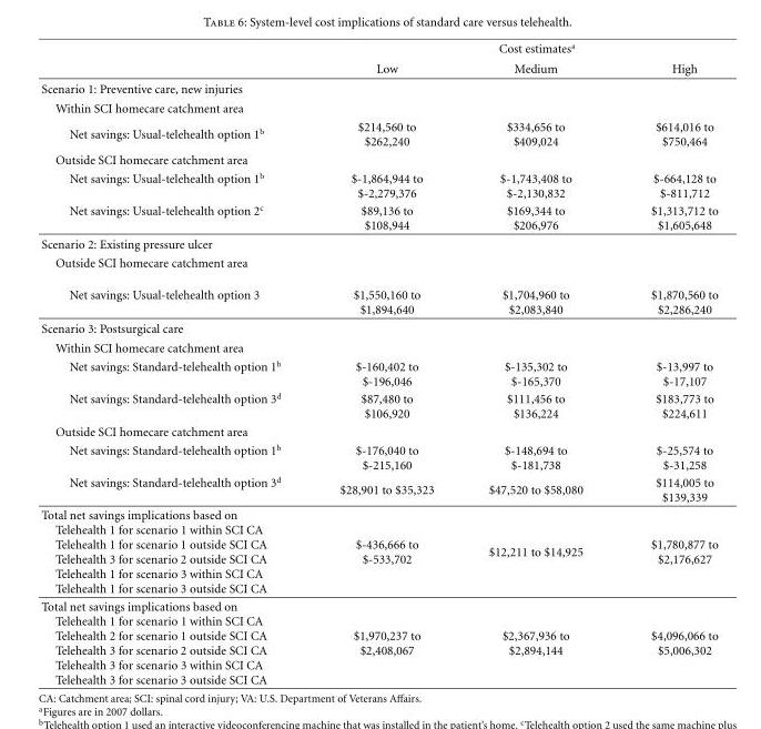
<table><thead><tr><td rowspan="2"></td><td colspan="3">Cost estimates<sup>a</sup></td></tr><tr><td>Low</td><td>Medium</td><td>High</td></tr></thead><tbody><tr><td colspan="4">Scenario 1: Preventive care, new injuries</td></tr><tr><td colspan="4">Within SCI homecare catchment area</td></tr><tr><td>Net savings: Usual-telehealth option 1<sup>b</sup></td><td>$214,560 to $262,240</td><td>$334,656 to $409,024</td><td>$614,016 to $750,464</td></tr><tr><td colspan="4">Outside SCI homecare catchment area</td></tr><tr><td>Net savings: Usual-telehealth option 1<sup>b</sup></td><td>$-1,864,944 to $-2,279,376</td><td>$-1,743,408 to $-2,130,832</td><td>$-664,128 to $-811,712</td></tr><tr><td>Net savings: Usual-telehealth option 2<sup>c</sup></td><td>$89,136 to $108,944</td><td>$169,344 to $206,976</td><td>$1,313,712 to $1,605,648</td></tr><tr><td colspan="4">Scenario 2: Existing pressure ulcer</td></tr><tr><td colspan="4">Outside SCI homecare catchment area</td></tr><tr><td>Net savings: Usual-telehealth option 3</td><td>$1,550,160 to $1,894,640</td><td>$1,704,960 to $2,083,840</td><td>$1,870,560 to $2,286,240</td></tr><tr><td colspan="4">Scenario 3: Postsurgical care</td></tr><tr><td colspan="4">Within SCI homecare catchment area</td></tr><tr><td>Net savings: Standard-telehealth option 1<sup>b</sup></td><td>$-160,402 to $-196,046</td><td>$-135,302 to $-165,370</td><td>$-13,997 to $-17,107</td></tr><tr><td>Net savings: Standard-telehealth option 3<sup>d</sup></td><td>$87,480 to $106,920</td><td>$111,456 to $136,224</td><td>$183,773 to $224,611</td></tr><tr><td colspan="4">Outside SCI homecare catchment area</td></tr><tr><td>Net savings: Standard-telehealth option 1<sup>b</sup></td><td>$-176,040 to $-215,160</td><td>$-148,694 to $-181,738</td><td>$-25,574 to $-31,258</td></tr><tr><td>Net savings: Standard-telehealth option 3<sup>d</sup></td><td>$28,901 to $35,323</td><td>$47,520 to $58,080</td><td>$114,005 to $139,339</td></tr><tr><td>Total net savings implications based on Telehealth 1 for scenario 1 within SCI CA Telehealth 1 for scenario 1 outside SCI CA Telehealth 3 for scenario 2 outside SCI CA Telehealth 1 for scenario 3 within SCI CA Telehealth 1 for scenario 3 outside SCI CA</td><td>$-436,666 to $-533,702</td><td>$12,211 to $14,925</td><td>$1,780,877 to $2,176,627</td></tr><tr><td>Total net savings implications based on Telehealth 1 for scenario 1 within SCI CA Telehealth 2 for scenario 1 outside SCI CA Telehealth 3 for scenario 2 outside SCI CA Telehealth 3 for scenario 3 within SCI CA Telehealth 3 for scenario 3 outside SCI CA</td><td>$1,970,237 to $2,408,067</td><td>$2,367,936 to $2,894,144</td><td>$4,096,066 to $5,006,302</td></tr></tbody></table>